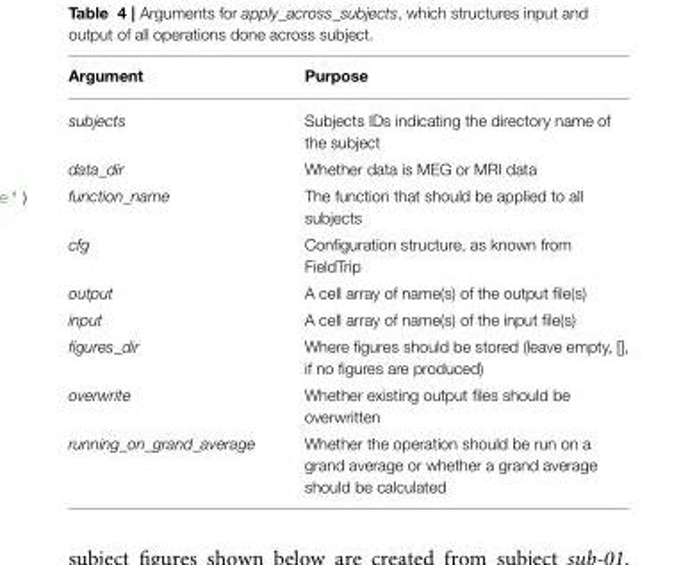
<table><thead><tr><td>Argument</td><td>Purpose</td></tr></thead><tbody><tr><td>subjects</td><td>Subjects IDs indicating the directory name of the subject</td></tr><tr><td>data_dir</td><td>Whether data is MEG or MRI data</td></tr><tr><td>function_name</td><td>The function that should be applied to all subjects</td></tr><tr><td>cfg</td><td>Configuration structure, as known from FieldTrip</td></tr><tr><td>output</td><td>A cell array of name(s) of the output file(s)</td></tr><tr><td>input</td><td>A cell array of name(s) of the input file(s)</td></tr><tr><td>figures_dir</td><td>Where figures should be stored (leave empty, [], if no figures are produced)</td></tr><tr><td>overwrite</td><td>Whether existing output files should be overwritten</td></tr><tr><td>running_on_grand_average</td><td>Whether the operation should be run on a grand average or whether a grand average should be calculated</td></tr></tbody></table>